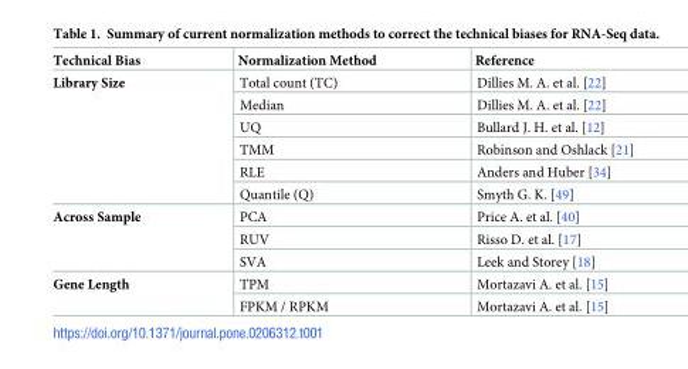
<table><thead><tr><td>Technical Bias</td><td>Normalization Method</td><td>Reference</td></tr></thead><tbody><tr><td rowspan="6">Library Size</td><td>Total count (TC)</td><td>Dillies M. A. et al. [22]</td></tr><tr><td>Median</td><td>Dillies M. A. et al. [22]</td></tr><tr><td>UQ</td><td>Bullard J. H. et al. [12]</td></tr><tr><td>TMM</td><td>Robinson and Oshlack [21]</td></tr><tr><td>RLE</td><td>Anders and Huber [34]</td></tr><tr><td>Quantile (Q)</td><td>Smyth G. K. [49]</td></tr><tr><td rowspan="3">Across Sample</td><td>PCA</td><td>Price A. et al. [40]</td></tr><tr><td>RUV</td><td>Risso D. et al. [17]</td></tr><tr><td>SVA</td><td>Leek and Storey [18]</td></tr><tr><td rowspan="2">Gene Length</td><td>TPM</td><td>Mortazavi A. et al. [15]</td></tr><tr><td>FPKM / RPKM</td><td>Mortazavi A. et al. [15]</td></tr></tbody></table>